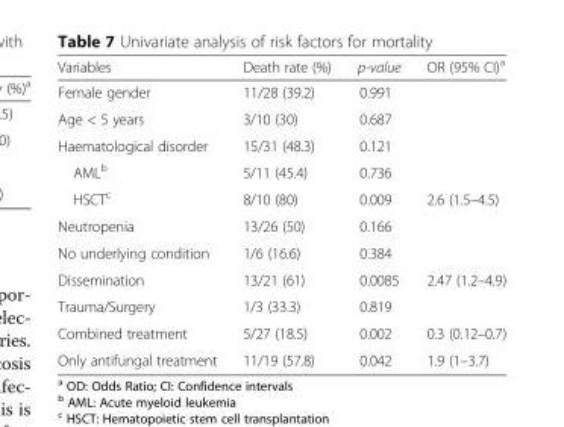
<table><thead><tr><td>Variables</td><td>Death rate (%)</td><td>p-value</td><td>OR (95% CI)<sup>a</sup></td></tr></thead><tbody><tr><td>Female gender</td><td>11/28 (39.2)</td><td>0.991</td><td></td></tr><tr><td>Age &lt; 5 years</td><td>3/10 (30)</td><td>0.687</td><td></td></tr><tr><td>Haematological disorder</td><td>15/31 (48.3)</td><td>0.121</td><td></td></tr><tr><td>AML<sup>b</sup></td><td>5/11 (45.4)</td><td>0.736</td><td></td></tr><tr><td>HSCT<sup>c</sup></td><td>8/10 (80)</td><td>0.009</td><td>2.6 (1.5–4.5)</td></tr><tr><td>Neutropenia</td><td>13/26 (50)</td><td>0.166</td><td></td></tr><tr><td>No underlying condition</td><td>1/6 (16.6)</td><td>0.384</td><td></td></tr><tr><td>Dissemination</td><td>13/21 (61)</td><td>0.0085</td><td>2.47 (1.2–4.9)</td></tr><tr><td>Trauma/Surgery</td><td>1/3 (33.3)</td><td>0.819</td><td></td></tr><tr><td>Combined treatment</td><td>5/27 (18.5)</td><td>0.002</td><td>0.3 (0.12–0.7)</td></tr><tr><td>Only antifungal treatment</td><td>11/19 (57.8)</td><td>0.042</td><td>1.9 (1–3.7)</td></tr></tbody></table>